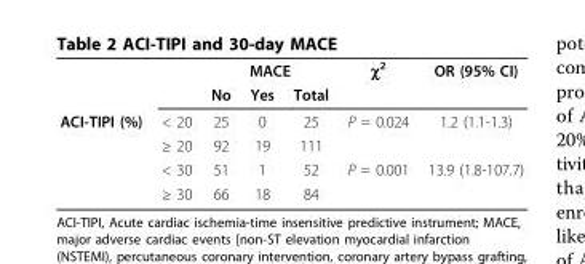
<table><thead><tr><td rowspan="2"></td><td rowspan="2"></td><td colspan="3">MACE</td><td rowspan="2">χ<sup>2</sup></td><td rowspan="2">OR (95% CI)</td></tr><tr><td>No</td><td>Yes</td><td>Total</td></tr></thead><tbody><tr><td rowspan="4">ACI-TIPI (%)</td><td>&lt; 20</td><td>25</td><td>0</td><td>25</td><td>P = 0.024</td><td>1.2 (1.1-1.3)</td></tr><tr><td>≥ 20</td><td>92</td><td>19</td><td>111</td><td></td><td></td></tr><tr><td>&lt; 30</td><td>51</td><td>1</td><td>52</td><td>P = 0.001</td><td>13.9 (1.8-107.7)</td></tr><tr><td>≥ 30</td><td>66</td><td>18</td><td>84</td><td></td><td></td></tr></tbody></table>